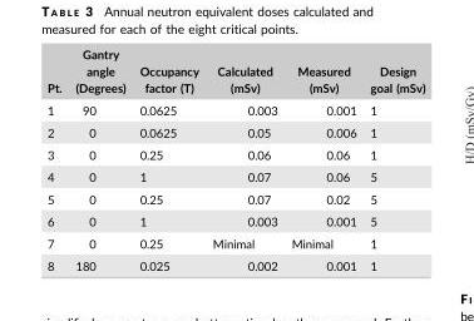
<table><thead><tr><td>Pt.</td><td>Gantry angle (Degrees)</td><td>Occupancy factor (T)</td><td>Calculated (mSv)</td><td>Measured (mSv)</td><td>Design goal (mSv)</td></tr></thead><tbody><tr><td>1</td><td>90</td><td>0.0625</td><td>0.003</td><td>0.001</td><td>1</td></tr><tr><td>2</td><td>0</td><td>0.0625</td><td>0.05</td><td>0.006</td><td>1</td></tr><tr><td>3</td><td>0</td><td>0.25</td><td>0.06</td><td>0.06</td><td>1</td></tr><tr><td>4</td><td>0</td><td>1</td><td>0.07</td><td>0.06</td><td>5</td></tr><tr><td>5</td><td>0</td><td>0.25</td><td>0.07</td><td>0.02</td><td>5</td></tr><tr><td>6</td><td>0</td><td>1</td><td>0.003</td><td>0.001</td><td>5</td></tr><tr><td>7</td><td>0</td><td>0.25</td><td>Minimal</td><td>Minimal</td><td>1</td></tr><tr><td>8</td><td>180</td><td>0.025</td><td>0.002</td><td>0.001</td><td>1</td></tr></tbody></table>